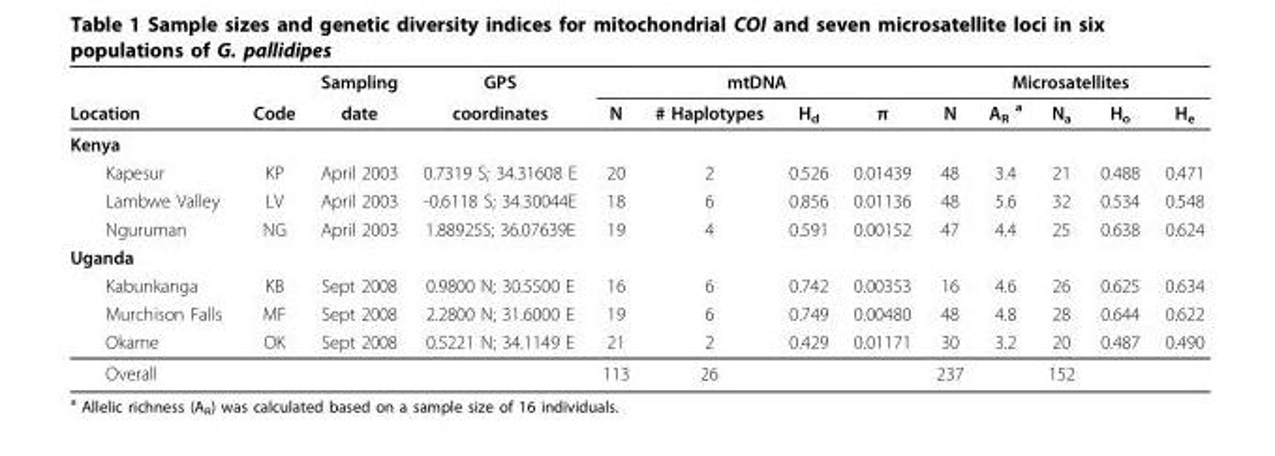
<table><thead><tr><td rowspan="2">Location</td><td rowspan="2">Code</td><td rowspan="2">Sampling date</td><td rowspan="2">GPS coordinates</td><td colspan="4">mtDNA</td><td colspan="5">Microsatellites</td></tr><tr><td>N</td><td># Haplotypes</td><td>H<sub>d</sub></td><td>π</td><td>N</td><td>A<sub>R</sub> <sup>a</sup></td><td>N<sub>a</sub></td><td>H<sub>o</sub></td><td>H<sub>e</sub></td></tr></thead><tbody><tr><td colspan="13">Kenya</td></tr><tr><td>Kapesur</td><td>KP</td><td>April 2003</td><td>0.7319 S; 34.31608 E</td><td>20</td><td>2</td><td>0.526</td><td>0.01439</td><td>48</td><td>3.4</td><td>21</td><td>0.488</td><td>0.471</td></tr><tr><td>Lambwe Valley</td><td>LV</td><td>April 2003</td><td>-0.6118 S; 34.30044E</td><td>18</td><td>6</td><td>0.856</td><td>0.01136</td><td>48</td><td>5.6</td><td>32</td><td>0.534</td><td>0.548</td></tr><tr><td>Nguruman</td><td>NG</td><td>April 2003</td><td>1.88925S; 36.07639E</td><td>19</td><td>4</td><td>0.591</td><td>0.00152</td><td>47</td><td>4.4</td><td>25</td><td>0.638</td><td>0.624</td></tr><tr><td colspan="13">Uganda</td></tr><tr><td>Kabunkanga</td><td>KB</td><td>Sept 2008</td><td>0.9800 N; 30.5500 E</td><td>16</td><td>6</td><td>0.742</td><td>0.00353</td><td>16</td><td>4.6</td><td>26</td><td>0.625</td><td>0.634</td></tr><tr><td>Murchison Falls</td><td>MF</td><td>Sept 2008</td><td>2.2800 N; 31.6000 E</td><td>19</td><td>6</td><td>0.749</td><td>0.00480</td><td>48</td><td>4.8</td><td>28</td><td>0.644</td><td>0.622</td></tr><tr><td>Okame</td><td>OK</td><td>Sept 2008</td><td>0.5221 N; 34.1149 E</td><td>21</td><td>2</td><td>0.429</td><td>0.01171</td><td>30</td><td>3.2</td><td>20</td><td>0.487</td><td>0.490</td></tr><tr><td>Overall</td><td></td><td></td><td></td><td>113</td><td>26</td><td></td><td></td><td>237</td><td></td><td>152</td><td></td><td></td></tr></tbody></table>